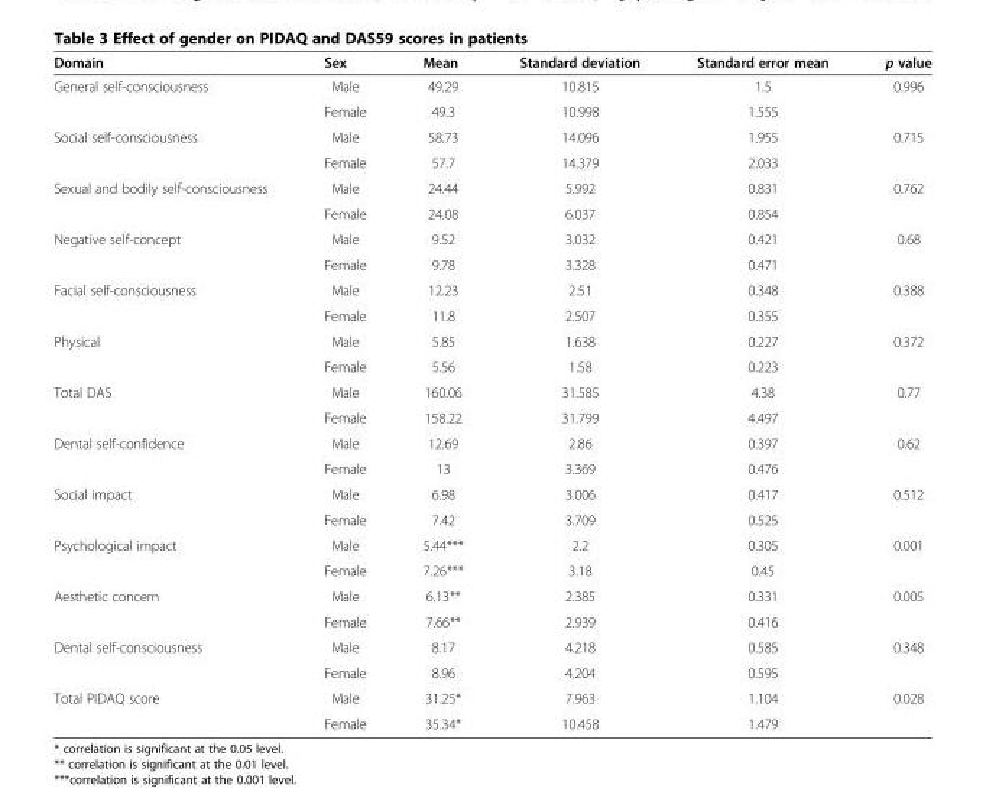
<table><thead><tr><td>Domain</td><td>Sex</td><td>Mean</td><td>Standard deviation</td><td>Standard error mean</td><td>p value</td></tr></thead><tbody><tr><td rowspan="2">General self-consciousness</td><td>Male</td><td>49.29</td><td>10.815</td><td>1.5</td><td rowspan="2">0.996</td></tr><tr><td>Female</td><td>49.3</td><td>10.998</td><td>1.555</td></tr><tr><td rowspan="2">Social self-consciousness</td><td>Male</td><td>58.73</td><td>14.096</td><td>1.955</td><td rowspan="2">0.715</td></tr><tr><td>Female</td><td>57.7</td><td>14.379</td><td>2.033</td></tr><tr><td rowspan="2">Sexual and bodily self-consciousness</td><td>Male</td><td>24.44</td><td>5.992</td><td>0.831</td><td rowspan="2">0.762</td></tr><tr><td>Female</td><td>24.08</td><td>6.037</td><td>0.854</td></tr><tr><td rowspan="2">Negative self-concept</td><td>Male</td><td>9.52</td><td>3.032</td><td>0.421</td><td rowspan="2">0.68</td></tr><tr><td>Female</td><td>9.78</td><td>3.328</td><td>0.471</td></tr><tr><td rowspan="2">Facial self-consciousness</td><td>Male</td><td>12.23</td><td>2.51</td><td>0.348</td><td rowspan="2">0.388</td></tr><tr><td>Female</td><td>11.8</td><td>2.507</td><td>0.355</td></tr><tr><td rowspan="2">Physical</td><td>Male</td><td>5.85</td><td>1.638</td><td>0.227</td><td rowspan="2">0.372</td></tr><tr><td>Female</td><td>5.56</td><td>1.58</td><td>0.223</td></tr><tr><td rowspan="2">Total DAS</td><td>Male</td><td>160.06</td><td>31.585</td><td>4.38</td><td rowspan="2">0.77</td></tr><tr><td>Female</td><td>158.22</td><td>31.799</td><td>4.497</td></tr><tr><td rowspan="2">Dental self-confidence</td><td>Male</td><td>12.69</td><td>2.86</td><td>0.397</td><td rowspan="2">0.62</td></tr><tr><td>Female</td><td>13</td><td>3.369</td><td>0.476</td></tr><tr><td rowspan="2">Social impact</td><td>Male</td><td>6.98</td><td>3.006</td><td>0.417</td><td rowspan="2">0.512</td></tr><tr><td>Female</td><td>7.42</td><td>3.709</td><td>0.525</td></tr><tr><td rowspan="2">Psychological impact</td><td>Male</td><td>5.44***</td><td>2.2</td><td>0.305</td><td rowspan="2">0.001</td></tr><tr><td>Female</td><td>7.26***</td><td>3.18</td><td>0.45</td></tr><tr><td rowspan="2">Aesthetic concern</td><td>Male</td><td>6.13**</td><td>2.385</td><td>0.331</td><td rowspan="2">0.005</td></tr><tr><td>Female</td><td>7.66**</td><td>2.939</td><td>0.416</td></tr><tr><td rowspan="2">Dental self-consciousness</td><td>Male</td><td>8.17</td><td>4.218</td><td>0.585</td><td rowspan="2">0.348</td></tr><tr><td>Female</td><td>8.96</td><td>4.204</td><td>0.595</td></tr><tr><td rowspan="2">Total PIDAQ score</td><td>Male</td><td>31.25*</td><td>7.963</td><td>1.104</td><td rowspan="2">0.028</td></tr><tr><td>Female</td><td>35.34*</td><td>10.458</td><td>1.479</td></tr></tbody></table>